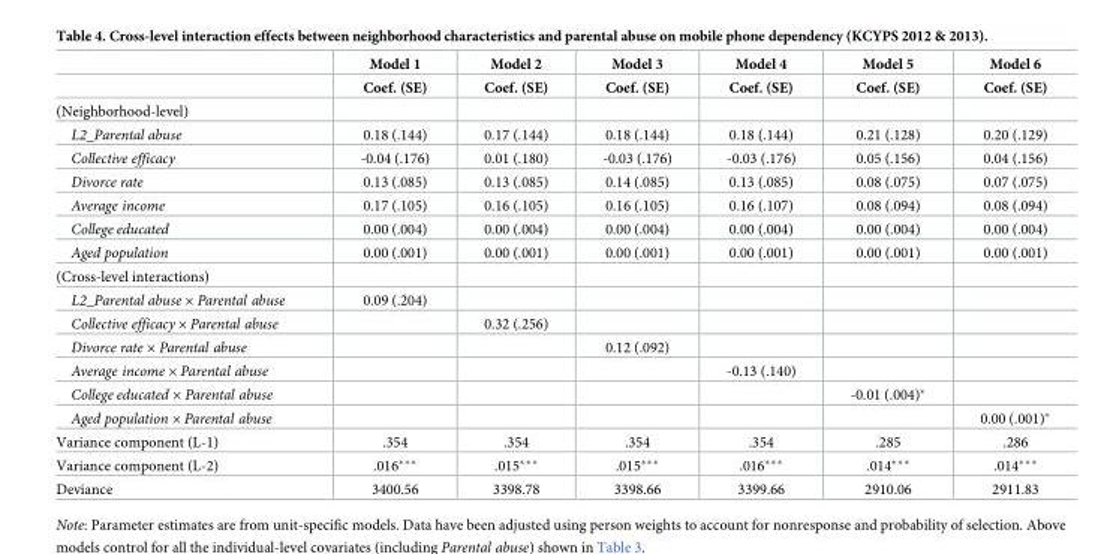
<table><thead><tr><td rowspan="2"></td><td rowspan="2">Model 1 Coef. (SE)</td><td rowspan="2">Model 2 Coef. (SE)</td><td rowspan="2">Model 3 Coef. (SE)</td><td rowspan="2">Model 4 Coef. (SE)</td><td rowspan="2">Model 5 Coef. (SE)</td><td rowspan="2">Model 6 Coef. (SE)</td></tr><tr></tr></thead><tbody><tr><td colspan="7">(Neighborhood-level)</td></tr><tr><td>L2_Parental abuse</td><td>0.18 (.144)</td><td>0.17 (.144)</td><td>0.18 (.144)</td><td>0.18 (.144)</td><td>0.21 (.128)</td><td>0.20 (.129)</td></tr><tr><td>Collective efficacy</td><td>-0.04 (.176)</td><td>0.01 (.180)</td><td>-0.03 (.176)</td><td>-0.03 (.176)</td><td>0.05 (.156)</td><td>0.04 (.156)</td></tr><tr><td>Divorce rate</td><td>0.13 (.085)</td><td>0.13 (.085)</td><td>0.14 (.085)</td><td>0.13 (.085)</td><td>0.08 (.075)</td><td>0.07 (.075)</td></tr><tr><td>Average income</td><td>0.17 (.105)</td><td>0.16 (.105)</td><td>0.16 (.105)</td><td>0.16 (.107)</td><td>0.08 (.094)</td><td>0.08 (.094)</td></tr><tr><td>College educated</td><td>0.00 (.004)</td><td>0.00 (.004)</td><td>0.00 (.004)</td><td>0.00 (.004)</td><td>0.00 (.004)</td><td>0.00 (.004)</td></tr><tr><td>Aged population</td><td>0.00 (.001)</td><td>0.00 (.001)</td><td>0.00 (.001)</td><td>0.00 (.001)</td><td>0.00 (.001)</td><td>0.00 (.001)</td></tr><tr><td colspan="7">(Cross-level interactions)</td></tr><tr><td>L2_Parental abuse × Parental abuse</td><td>0.09 (.204)</td><td></td><td></td><td></td><td></td><td></td></tr><tr><td>Collective efficacy × Parental abuse</td><td></td><td>0.32 (.256)</td><td></td><td></td><td></td><td></td></tr><tr><td>Divorce rate × Parental abuse</td><td></td><td></td><td>0.12 (.092)</td><td></td><td></td><td></td></tr><tr><td>Average income × Parental abuse</td><td></td><td></td><td></td><td>-0.13 (.140)</td><td></td><td></td></tr><tr><td>College educated × Parental abuse</td><td></td><td></td><td></td><td></td><td>-0.01 (.004)*</td><td></td></tr><tr><td>Aged population × Parental abuse</td><td></td><td></td><td></td><td></td><td></td><td>0.00 (.001)*</td></tr><tr><td>Variance component (L-1)</td><td>.354</td><td>.354</td><td>.354</td><td>.354</td><td>.285</td><td>.286</td></tr><tr><td>Variance component (L-2)</td><td>.016***</td><td>.015***</td><td>.015***</td><td>.016***</td><td>.014***</td><td>.014***</td></tr><tr><td>Deviance</td><td>3400.56</td><td>3398.78</td><td>3398.66</td><td>3399.66</td><td>2910.06</td><td>2911.83</td></tr></tbody></table>